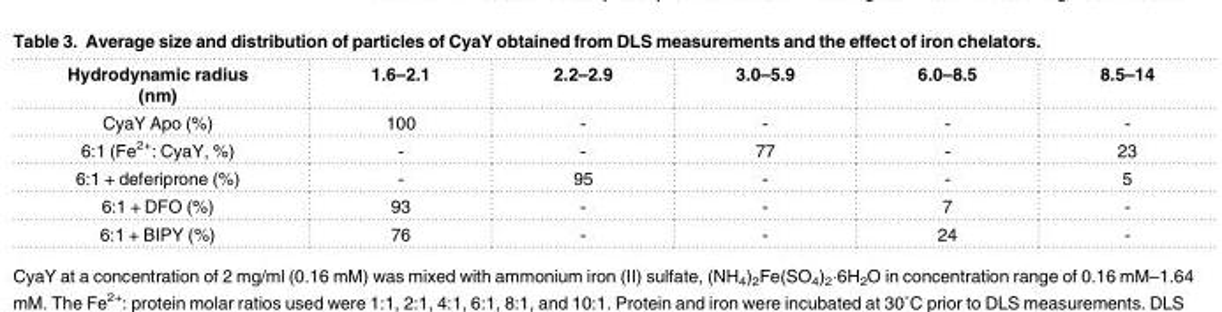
<table><thead><tr><td>Hydrodynamic radius (nm)</td><td>1.6–2.1</td><td>2.2–2.9</td><td>3.0–5.9</td><td>6.0–8.5</td><td>8.5–14</td></tr></thead><tbody><tr><td>CyaY Apo (%)</td><td>100</td><td>-</td><td>-</td><td>-</td><td>-</td></tr><tr><td>6:1 (Fe<sup>2+</sup>: CyaY, %)</td><td>-</td><td>-</td><td>77</td><td>-</td><td>23</td></tr><tr><td>6:1 + deferiprone (%)</td><td>-</td><td>95</td><td>-</td><td>-</td><td>5</td></tr><tr><td>6:1 + DFO (%)</td><td>93</td><td>-</td><td>-</td><td>7</td><td>-</td></tr><tr><td>6:1 + BIPY (%)</td><td>76</td><td>-</td><td>-</td><td>24</td><td>-</td></tr></tbody></table>